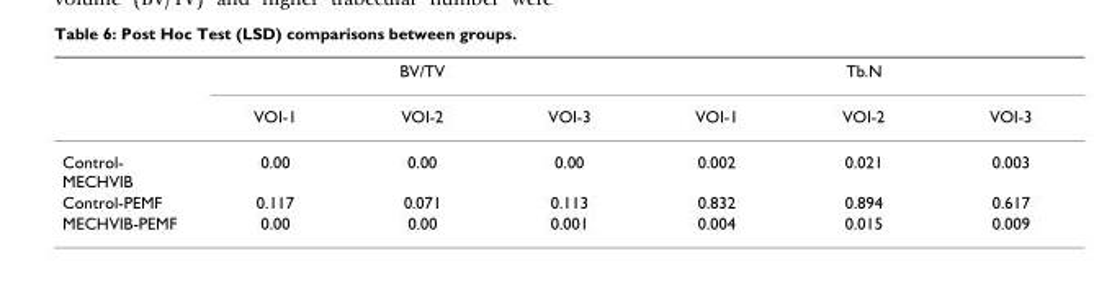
<table><thead><tr><td rowspan="2"></td><td colspan="3">BV/TV</td><td colspan="3">Tb.N</td></tr><tr><td>VOI-1</td><td>VOI-2</td><td>VOI-3</td><td>VOI-1</td><td>VOI-2</td><td>VOI-3</td></tr></thead><tbody><tr><td>Control- MECHVIB</td><td>0.00</td><td>0.00</td><td>0.00</td><td>0.002</td><td>0.021</td><td>0.003</td></tr><tr><td>Control-PEMF</td><td>0.117</td><td>0.071</td><td>0.113</td><td>0.832</td><td>0.894</td><td>0.617</td></tr><tr><td>MECHVIB-PEMF</td><td>0.00</td><td>0.00</td><td>0.001</td><td>0.004</td><td>0.015</td><td>0.009</td></tr></tbody></table>